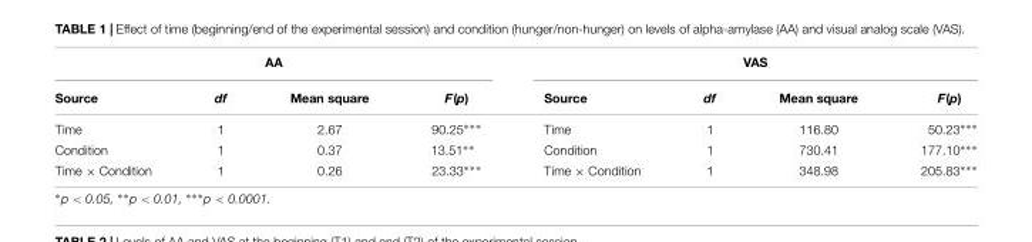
<table><thead><tr><td colspan="4">AA</td><td colspan="4">VAS</td></tr><tr><td>Source</td><td>df</td><td>Mean square</td><td>F(p)</td><td>Source</td><td>df</td><td>Mean square</td><td>F(p)</td></tr></thead><tbody><tr><td>Time</td><td>1</td><td>2.67</td><td>90.25∗∗∗</td><td>Time</td><td>1</td><td>116.80</td><td>50.23∗∗∗</td></tr><tr><td>Condition</td><td>1</td><td>0.37</td><td>13.51∗∗</td><td>Condition</td><td>1</td><td>730.41</td><td>177.10∗∗∗</td></tr><tr><td>Time × Condition</td><td>1</td><td>0.26</td><td>23.33∗∗∗</td><td>Time × Condition</td><td>1</td><td>348.98</td><td>205.83∗∗∗</td></tr></tbody></table>